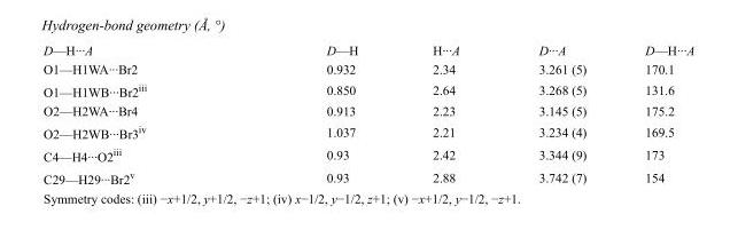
<table><tbody><tr><td>D—H···A</td><td>D—H</td><td>H···A</td><td>D···A</td><td>D—H···A</td></tr><tr><td>O1—H1WA···Br2</td><td>0.932</td><td>2.34</td><td>3.261 (5)</td><td>170.1</td></tr><tr><td>O1—H1WB···Br2<sup>iii</sup></td><td>0.850</td><td>2.64</td><td>3.268 (5)</td><td>131.6</td></tr><tr><td>O2—H2WA···Br4</td><td>0.913</td><td>2.23</td><td>3.145 (5)</td><td>175.2</td></tr><tr><td>O2—H2WB···Br3<sup>iv</sup></td><td>1.037</td><td>2.21</td><td>3.234 (4)</td><td>169.5</td></tr><tr><td>C4—H4···O2<sup>iii</sup></td><td>0.93</td><td>2.42</td><td>3.344 (9)</td><td>173</td></tr><tr><td>C29—H29···Br2<sup>v</sup></td><td>0.93</td><td>2.88</td><td>3.742 (7)</td><td>154</td></tr></tbody></table>